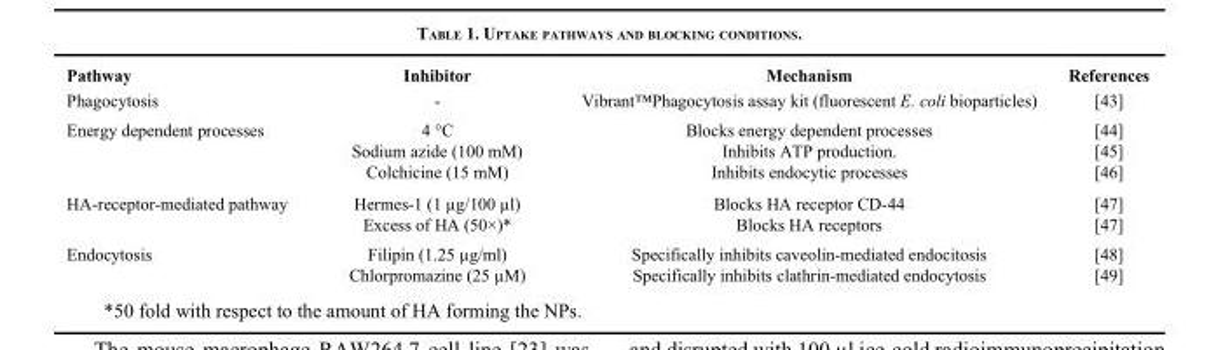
<table><thead><tr><td>Pathway</td><td>Inhibitor</td><td>Mechanism</td><td>References</td></tr></thead><tbody><tr><td>Phagocytosis</td><td>-</td><td>Vibrant™Phagocytosis assay kit (fluorescent E. coli bioparticles)</td><td>[43]</td></tr><tr><td rowspan="3">Energy dependent processes</td><td>4 °C</td><td>Blocks energy dependent processes</td><td>[44]</td></tr><tr><td>Sodium azide (100 mM)</td><td>Inhibits ATP production.</td><td>[45]</td></tr><tr><td>Colchicine (15 mM)</td><td>Inhibits endocytic processes</td><td>[46]</td></tr><tr><td rowspan="2">HA-receptor-mediated pathway</td><td>Hermes-1 (1 µg/100 µl)</td><td>Blocks HA receptor CD-44</td><td>[47]</td></tr><tr><td>Excess of HA (50×)*</td><td>Blocks HA receptors</td><td>[47]</td></tr><tr><td rowspan="2">Endocytosis</td><td>Filipin (1.25 µg/ml)</td><td>Specifically inhibits caveolin-mediated endocitosis</td><td>[48]</td></tr><tr><td>Chlorpromazine (25 µM)</td><td>Specifically inhibits clathrin-mediated endocytosis</td><td>[49]</td></tr></tbody></table>